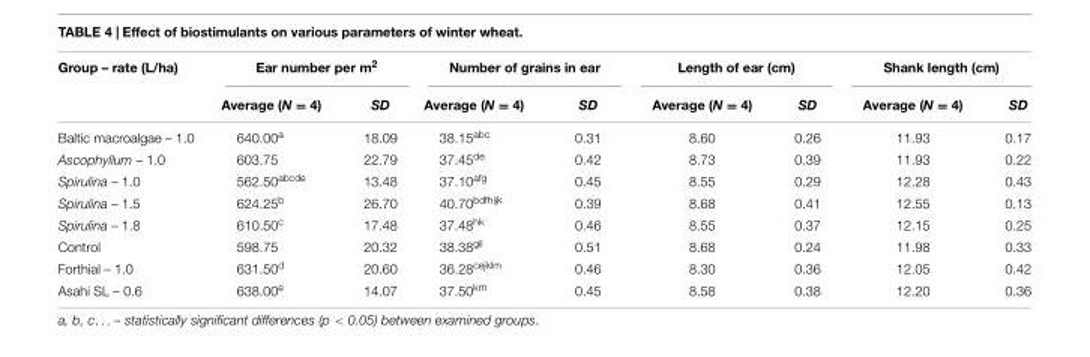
<table><thead><tr><td rowspan="2">Group – rate (L/ha)</td><td colspan="2">Ear number per m<sup>2</sup></td><td colspan="2">Number of grains in ear</td><td colspan="2">Length of ear (cm)</td><td colspan="2">Shank length (cm)</td></tr><tr><td>Average (N = 4)</td><td>SD</td><td>Average (N = 4)</td><td>SD</td><td>Average (N = 4)</td><td>SD</td><td>Average (N = 4)</td><td>SD</td></tr></thead><tbody><tr><td>Baltic macroalgae – 1.0</td><td>640.00<sup>a</sup></td><td>18.09</td><td>38.15<sup>abc</sup></td><td>0.31</td><td>8.60</td><td>0.26</td><td>11.93</td><td>0.17</td></tr><tr><td>Ascophyllum – 1.0</td><td>603.75</td><td>22.79</td><td>37.45<sup>de</sup></td><td>0.42</td><td>8.73</td><td>0.39</td><td>11.93</td><td>0.22</td></tr><tr><td>Spirulina – 1.0</td><td>562.50<sup>abcde</sup></td><td>13.48</td><td>37.10<sup>afg</sup></td><td>0.45</td><td>8.55</td><td>0.29</td><td>12.28</td><td>0.43</td></tr><tr><td>Spirulina – 1.5</td><td>624.25<sup>b</sup></td><td>26.70</td><td>40.70<sup>bdfhijk</sup></td><td>0.39</td><td>8.68</td><td>0.41</td><td>12.55</td><td>0.13</td></tr><tr><td>Spirulina – 1.8</td><td>610.50<sup>c</sup></td><td>17.48</td><td>37.48<sup>hk</sup></td><td>0.46</td><td>8.55</td><td>0.37</td><td>12.15</td><td>0.25</td></tr><tr><td>Control</td><td>598.75</td><td>20.32</td><td>38.38<sup>gil</sup></td><td>0.51</td><td>8.68</td><td>0.24</td><td>11.98</td><td>0.33</td></tr><tr><td>Forthial – 1.0</td><td>631.50<sup>d</sup></td><td>20.60</td><td>36.28<sup>cejklm</sup></td><td>0.46</td><td>8.30</td><td>0.36</td><td>12.05</td><td>0.42</td></tr><tr><td>Asahi SL – 0.6</td><td>638.00<sup>e</sup></td><td>14.07</td><td>37.50<sup>km</sup></td><td>0.45</td><td>8.58</td><td>0.38</td><td>12.20</td><td>0.36</td></tr></tbody></table>